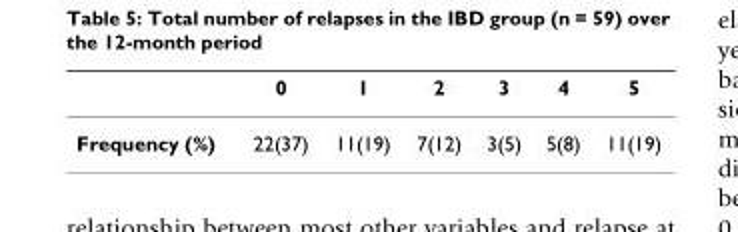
<table><thead><tr><td></td><td>0</td><td>1</td><td>2</td><td>3</td><td>4</td><td>5</td></tr></thead><tbody><tr><td>Frequency (%)</td><td>22(37)</td><td>11(19)</td><td>7(12)</td><td>3(5)</td><td>5(8)</td><td>11(19)</td></tr></tbody></table>